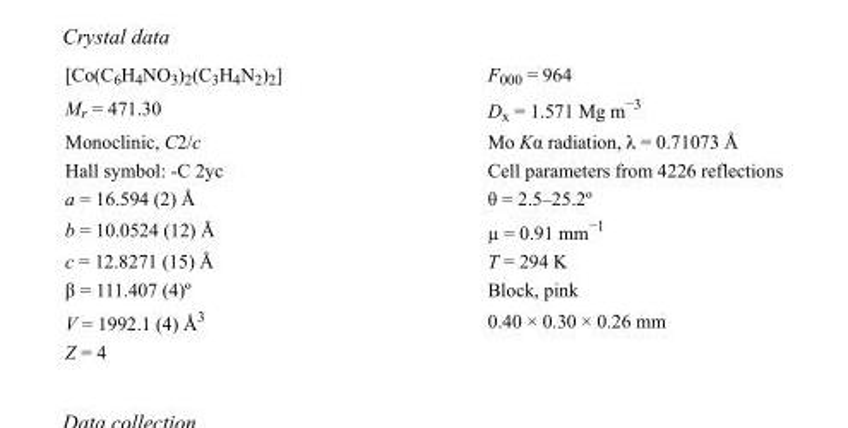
<table><tbody><tr><td>[Co(C<sub>6</sub>H<sub>4</sub>NO<sub>3</sub>)<sub>2</sub>(C<sub>3</sub>H<sub>4</sub>N<sub>2</sub>)<sub>2</sub>]</td><td>F000 = 964</td></tr><tr><td>M<sub>r</sub> = 471.30</td><td>D<sub>x</sub> = 1.571 Mg m<sup>−3</sup></td></tr><tr><td>Monoclinic, C2/c</td><td>Mo Kα radiation, λ = 0.71073 Å</td></tr><tr><td>Hall symbol: -C 2yc</td><td>Cell parameters from 4226 reflections</td></tr><tr><td>a = 16.594 (2) Å</td><td>θ = 2.5–25.2º</td></tr><tr><td>b = 10.0524 (12) Å</td><td>µ = 0.91 mm<sup>−1</sup></td></tr><tr><td>c = 12.8271 (15) Å</td><td>T = 294 K</td></tr><tr><td>β = 111.407 (4)º</td><td>Block, pink</td></tr><tr><td>V = 1992.1 (4) Å<sup>3</sup></td><td>0.40 × 0.30 × 0.26 mm</td></tr><tr><td>Z = 4</td><td></td></tr></tbody></table>